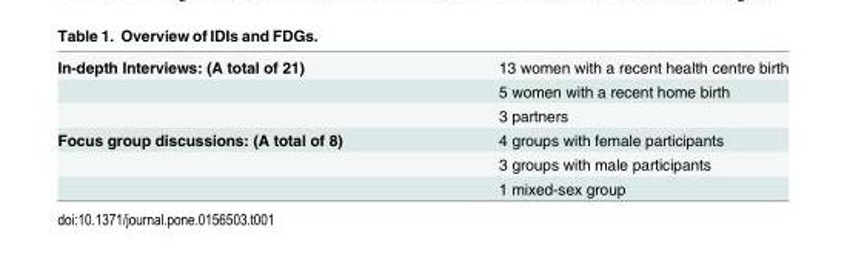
<table><tbody><tr><td rowspan="3">In-depth Interviews: (A total of 21)</td><td>13 women with a recent health centre birth</td></tr><tr><td>5 women with a recent home birth</td></tr><tr><td>3 partners</td></tr><tr><td rowspan="3">Focus group discussions: (A total of 8)</td><td>4 groups with female participants</td></tr><tr><td>3 groups with male participants</td></tr><tr><td>1 mixed-sex group</td></tr></tbody></table>